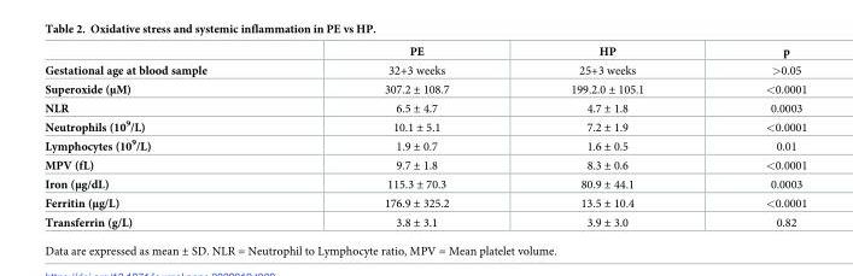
<table><thead><tr><td></td><td>PE</td><td>HP</td><td>p</td></tr></thead><tbody><tr><td>Gestational age at blood sample</td><td>32+3 weeks</td><td>25+3 weeks</td><td>&gt;0.05</td></tr><tr><td>Superoxide (μM)</td><td>307.2 ± 108.7</td><td>199.2.0 ± 105.1</td><td>&lt;0.0001</td></tr><tr><td>NLR</td><td>6.5 ± 4.7</td><td>4.7 ± 1.8</td><td>0.0003</td></tr><tr><td>Neutrophils (10<sup>9</sup>/L)</td><td>10.1 ± 5.1</td><td>7.2 ± 1.9</td><td>&lt;0.0001</td></tr><tr><td>Lymphocytes (10<sup>9</sup>/L)</td><td>1.9 ± 0.7</td><td>1.6 ± 0.5</td><td>0.01</td></tr><tr><td>MPV (fL)</td><td>9.7 ± 1.8</td><td>8.3 ± 0.6</td><td>&lt;0.0001</td></tr><tr><td>Iron (μg/dL)</td><td>115.3 ± 70.3</td><td>80.9 ± 44.1</td><td>0.0003</td></tr><tr><td>Ferritin (μg/L)</td><td>176.9 ± 325.2</td><td>13.5 ± 10.4</td><td>&lt;0.0001</td></tr><tr><td>Transferrin (g/L)</td><td>3.8 ± 3.1</td><td>3.9 ± 3.0</td><td>0.82</td></tr></tbody></table>